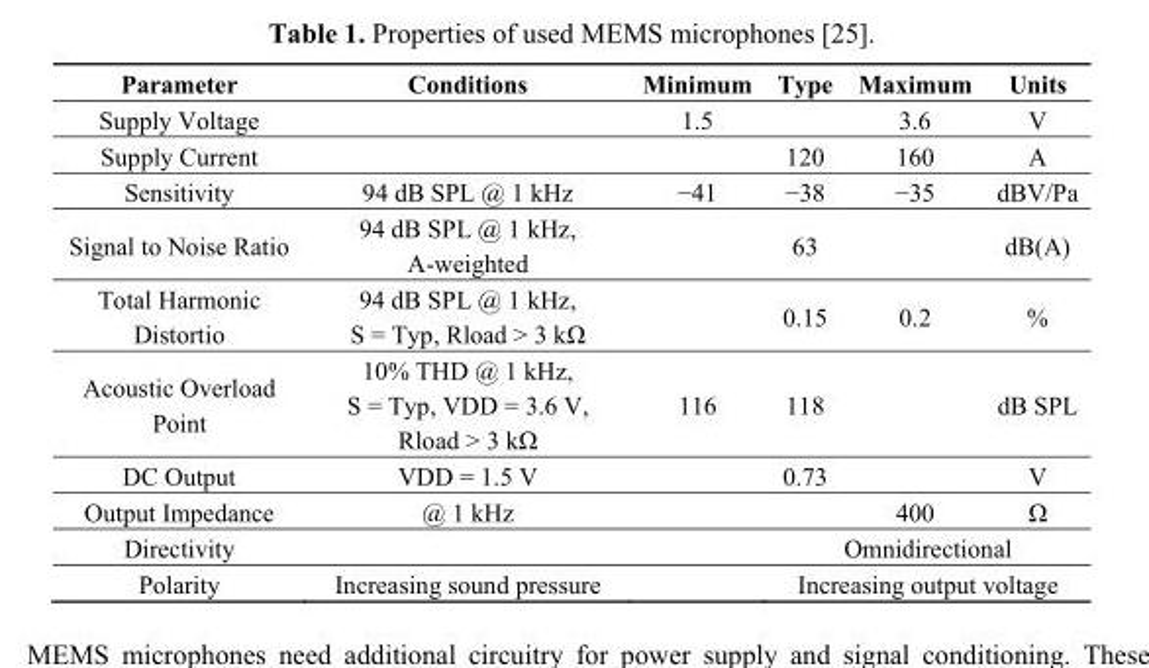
<table><thead><tr><td>Parameter</td><td>Conditions</td><td>Minimum</td><td>Type</td><td>Maximum</td><td>Units</td></tr></thead><tbody><tr><td>Supply Voltage</td><td></td><td>1.5</td><td></td><td>3.6</td><td>V</td></tr><tr><td>Supply Current</td><td></td><td></td><td>120</td><td>160</td><td>A</td></tr><tr><td>Sensitivity</td><td>94 dB SPL @ 1 kHz</td><td>−41</td><td>−38</td><td>−35</td><td>dBV/Pa</td></tr><tr><td>Signal to Noise Ratio</td><td>94 dB SPL @ 1 kHz, A-weighted</td><td></td><td>63</td><td></td><td>dB(A)</td></tr><tr><td>Total Harmonic Distortio</td><td>94 dB SPL @ 1 kHz, S = Typ, Rload &gt; 3 kΩ</td><td></td><td>0.15</td><td>0.2</td><td>%</td></tr><tr><td>Acoustic Overload Point</td><td>10% THD @ 1 kHz, S = Typ, VDD = 3.6 V, Rload &gt; 3 kΩ</td><td>116</td><td>118</td><td></td><td>dB SPL</td></tr><tr><td>DC Output</td><td>VDD = 1.5 V</td><td></td><td>0.73</td><td></td><td>V</td></tr><tr><td>Output Impedance</td><td>@ 1 kHz</td><td></td><td></td><td>400</td><td>Ω</td></tr><tr><td>Directivity</td><td></td><td></td><td colspan="3">Omnidirectional</td></tr><tr><td>Polarity</td><td>Increasing sound pressure</td><td></td><td colspan="3">Increasing output voltage</td></tr></tbody></table>